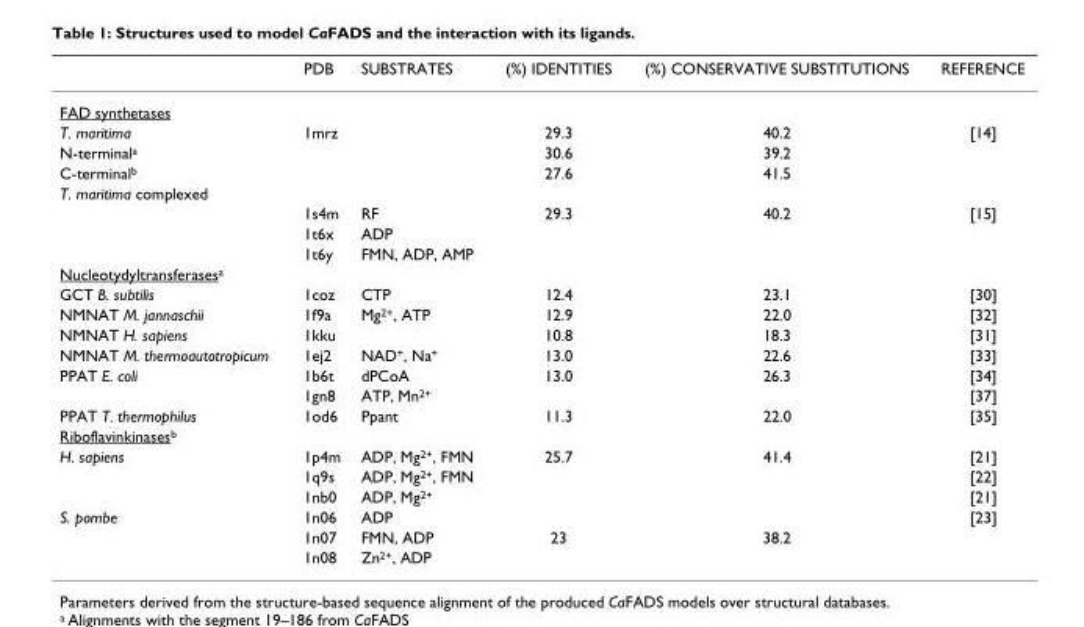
<table><thead><tr><td></td><td>PDB</td><td>SUBSTRATES</td><td>(%) IDENTITIES</td><td>(%) CONSERVATIVE SUBSTITUTIONS</td><td>REFERENCE</td></tr></thead><tbody><tr><td colspan="6">FAD synthetases</td></tr><tr><td>T. maritima</td><td>1mrz</td><td></td><td>29.3</td><td>40.2</td><td>[14]</td></tr><tr><td>N-terminal<sup>a</sup></td><td></td><td></td><td>30.6</td><td>39.2</td><td></td></tr><tr><td>C-terminal<sup>b</sup></td><td></td><td></td><td>27.6</td><td>41.5</td><td></td></tr><tr><td colspan="6">T. maritima complexed</td></tr><tr><td></td><td>1s4m</td><td>RF</td><td>29.3</td><td>40.2</td><td>[15]</td></tr><tr><td></td><td>1t6x</td><td>ADP</td><td></td><td></td><td></td></tr><tr><td></td><td>1t6y</td><td>FMN, ADP, AMP</td><td></td><td></td><td></td></tr><tr><td colspan="6">Nucleotydyltransferases<sup>a</sup></td></tr><tr><td>GCT B. subtilis</td><td>1coz</td><td>CTP</td><td>12.4</td><td>23.1</td><td>[30]</td></tr><tr><td>NMNAT M. jannaschii</td><td>1f9a</td><td>Mg<sup>2+</sup>, ATP</td><td>12.9</td><td>22.0</td><td>[32]</td></tr><tr><td>NMNAT H. sapiens</td><td>1kku</td><td></td><td>10.8</td><td>18.3</td><td>[31]</td></tr><tr><td>NMNAT M. thermoautotropicum</td><td>1ej2</td><td>NAD<sup>+</sup>, Na<sup>+</sup></td><td>13.0</td><td>22.6</td><td>[33]</td></tr><tr><td rowspan="2">PPAT E. coli</td><td>1b6t</td><td>dPCoA</td><td>13.0</td><td>26.3</td><td>[34]</td></tr><tr><td>1gn8</td><td>ATP, Mn<sup>2+</sup></td><td></td><td></td><td>[37]</td></tr><tr><td>PPAT T. thermophilus</td><td>1od6</td><td>Ppant</td><td>11.3</td><td>22.0</td><td>[35]</td></tr><tr><td colspan="6">Riboflavinkinases<sup>b</sup></td></tr><tr><td rowspan="3">H. sapiens</td><td>1p4m</td><td>ADP, Mg<sup>2+</sup>, FMN</td><td>25.7</td><td>41.4</td><td>[21]</td></tr><tr><td>1q9s</td><td>ADP, Mg<sup>2+</sup>, FMN</td><td></td><td></td><td>[22]</td></tr><tr><td>1nb0</td><td>ADP, Mg<sup>2+</sup></td><td></td><td></td><td>[21]</td></tr><tr><td rowspan="3">S. pombe</td><td>1n06</td><td>ADP</td><td></td><td></td><td>[23]</td></tr><tr><td>1n07</td><td>FMN, ADP</td><td>23</td><td>38.2</td><td></td></tr><tr><td>1n08</td><td>Zn<sup>2+</sup>, ADP</td><td></td><td></td><td></td></tr></tbody></table>